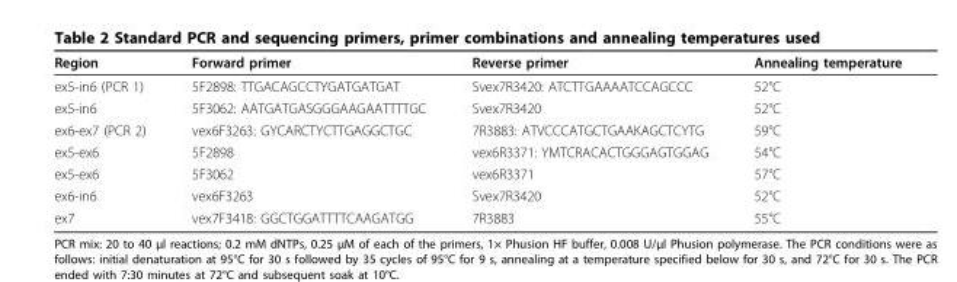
<table><thead><tr><td>Region</td><td>Forward primer</td><td>Reverse primer</td><td>Annealing temperature</td></tr></thead><tbody><tr><td>ex5-in6 (PCR 1)</td><td>5F2898: TTGACAGCCTYGATGATGAT</td><td>Svex7R3420: ATCTTGAAAATCCAGCCC</td><td>52°C</td></tr><tr><td>ex5-in6</td><td>5F3062: AATGATGASGGGAAGAATTTTGC</td><td>Svex7R3420</td><td>52°C</td></tr><tr><td>ex6-ex7 (PCR 2)</td><td>vex6F3263: GYCARCTYCTTGAGGCTGC</td><td>7R3883: ATVCCCATGCTGAAKAGCTCYTG</td><td>59°C</td></tr><tr><td>ex5-ex6</td><td>5F2898</td><td>vex6R3371: YMTCRACACTGGGAGTGGAG</td><td>54°C</td></tr><tr><td>ex5-ex6</td><td>5F3062</td><td>vex6R3371</td><td>57°C</td></tr><tr><td>ex6-in6</td><td>vex6F3263</td><td>Svex7R3420</td><td>52°C</td></tr><tr><td>ex7</td><td>vex7F3418: GGCTGGATTTTCAAGATGG</td><td>7R3883</td><td>55°C</td></tr></tbody></table>